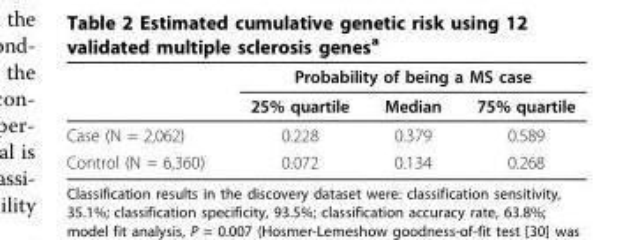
<table><thead><tr><td rowspan="2"></td><td colspan="3">Probability of being a MS case</td></tr><tr><td>25% quartile</td><td>Median</td><td>75% quartile</td></tr></thead><tbody><tr><td>Case (N = 2,062)</td><td>0.228</td><td>0.379</td><td>0.589</td></tr><tr><td>Control (N = 6,360)</td><td>0.072</td><td>0.134</td><td>0.268</td></tr></tbody></table>